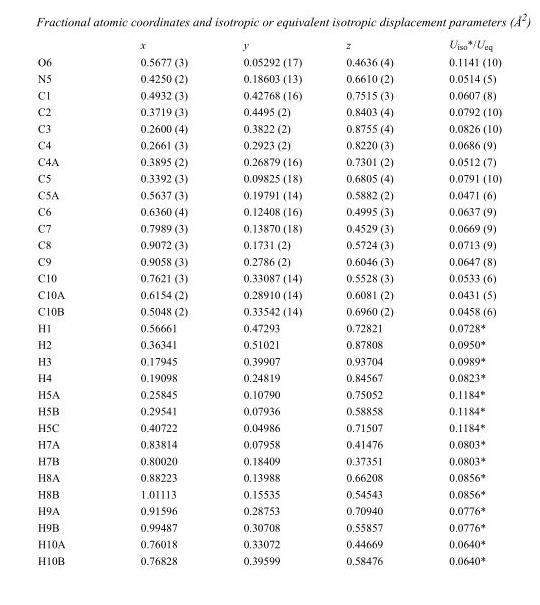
<table><thead><tr><td></td><td>x</td><td>y</td><td>z</td><td>U<sub>iso</sub>*/U<sub>eq</sub></td></tr></thead><tbody><tr><td>O6</td><td>0.5677 (3)</td><td>0.05292 (17)</td><td>0.4636 (4)</td><td>0.1141 (10)</td></tr><tr><td>N5</td><td>0.4250 (2)</td><td>0.18603 (13)</td><td>0.6610 (2)</td><td>0.0514 (5)</td></tr><tr><td>C1</td><td>0.4932 (3)</td><td>0.42768 (16)</td><td>0.7515 (3)</td><td>0.0607 (8)</td></tr><tr><td>C2</td><td>0.3719 (3)</td><td>0.4495 (2)</td><td>0.8403 (4)</td><td>0.0792 (10)</td></tr><tr><td>C3</td><td>0.2600 (4)</td><td>0.3822 (2)</td><td>0.8755 (4)</td><td>0.0826 (10)</td></tr><tr><td>C4</td><td>0.2661 (3)</td><td>0.2923 (2)</td><td>0.8220 (3)</td><td>0.0686 (9)</td></tr><tr><td>C4A</td><td>0.3895 (2)</td><td>0.26879 (16)</td><td>0.7301 (2)</td><td>0.0512 (7)</td></tr><tr><td>C5</td><td>0.3392 (3)</td><td>0.09825 (18)</td><td>0.6805 (4)</td><td>0.0791 (10)</td></tr><tr><td>C5A</td><td>0.5637 (3)</td><td>0.19791 (14)</td><td>0.5882 (2)</td><td>0.0471 (6)</td></tr><tr><td>C6</td><td>0.6360 (4)</td><td>0.12408 (16)</td><td>0.4995 (3)</td><td>0.0637 (9)</td></tr><tr><td>C7</td><td>0.7989 (3)</td><td>0.13870 (18)</td><td>0.4529 (3)</td><td>0.0669 (9)</td></tr><tr><td>C8</td><td>0.9072 (3)</td><td>0.1731 (2)</td><td>0.5724 (3)</td><td>0.0713 (9)</td></tr><tr><td>C9</td><td>0.9058 (3)</td><td>0.2786 (2)</td><td>0.6046 (3)</td><td>0.0647 (8)</td></tr><tr><td>C10</td><td>0.7621 (3)</td><td>0.33087 (14)</td><td>0.5528 (3)</td><td>0.0533 (6)</td></tr><tr><td>C10A</td><td>0.6154 (2)</td><td>0.28910 (14)</td><td>0.6081 (2)</td><td>0.0431 (5)</td></tr><tr><td>C10B</td><td>0.5048 (2)</td><td>0.33542 (14)</td><td>0.6960 (2)</td><td>0.0458 (6)</td></tr><tr><td>H1</td><td>0.56661</td><td>0.47293</td><td>0.72821</td><td>0.0728*</td></tr><tr><td>H2</td><td>0.36341</td><td>0.51021</td><td>0.87808</td><td>0.0950*</td></tr><tr><td>H3</td><td>0.17945</td><td>0.39907</td><td>0.93704</td><td>0.0989*</td></tr><tr><td>H4</td><td>0.19098</td><td>0.24819</td><td>0.84567</td><td>0.0823*</td></tr><tr><td>H5A</td><td>0.25845</td><td>0.10790</td><td>0.75052</td><td>0.1184*</td></tr><tr><td>H5B</td><td>0.29541</td><td>0.07936</td><td>0.58858</td><td>0.1184*</td></tr><tr><td>H5C</td><td>0.40722</td><td>0.04986</td><td>0.71507</td><td>0.1184*</td></tr><tr><td>H7A</td><td>0.83814</td><td>0.07958</td><td>0.41476</td><td>0.0803*</td></tr><tr><td>H7B</td><td>0.80020</td><td>0.18409</td><td>0.37351</td><td>0.0803*</td></tr><tr><td>H8A</td><td>0.88223</td><td>0.13988</td><td>0.66208</td><td>0.0856*</td></tr><tr><td>H8B</td><td>1.01113</td><td>0.15535</td><td>0.54543</td><td>0.0856*</td></tr><tr><td>H9A</td><td>0.91596</td><td>0.28753</td><td>0.70940</td><td>0.0776*</td></tr><tr><td>H9B</td><td>0.99487</td><td>0.30708</td><td>0.55857</td><td>0.0776*</td></tr><tr><td>H10A</td><td>0.76018</td><td>0.33072</td><td>0.44669</td><td>0.0640*</td></tr><tr><td>H10B</td><td>0.76828</td><td>0.39599</td><td>0.58476</td><td>0.0640*</td></tr></tbody></table>